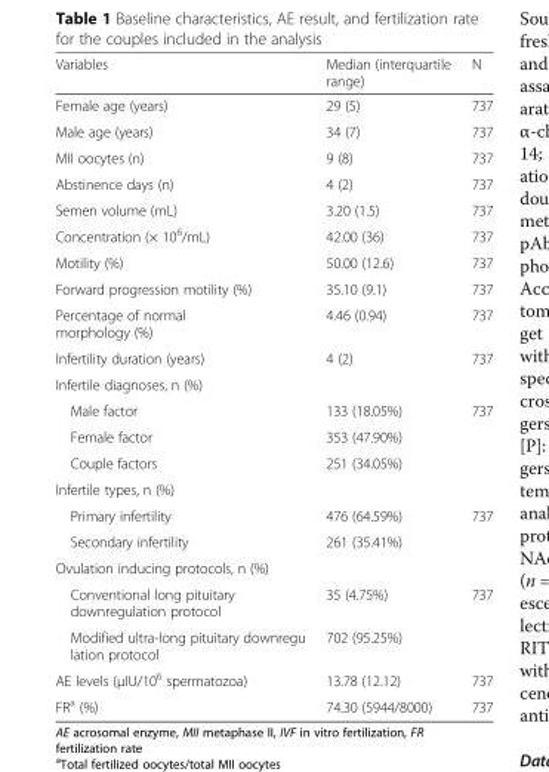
<table><thead><tr><td>Variables</td><td>Median (interquartile range)</td><td>N</td></tr></thead><tbody><tr><td>Female age (years)</td><td>29 (5)</td><td>737</td></tr><tr><td>Male age (years)</td><td>34 (7)</td><td>737</td></tr><tr><td>MII oocytes (n)</td><td>9 (8)</td><td>737</td></tr><tr><td>Abstinence days (n)</td><td>4 (2)</td><td>737</td></tr><tr><td>Semen volume (mL)</td><td>3.20 (1.5)</td><td>737</td></tr><tr><td>Concentration (× 10<sup>6</sup>/mL)</td><td>42.00 (36)</td><td>737</td></tr><tr><td>Motility (%)</td><td>50.00 (12.6)</td><td>737</td></tr><tr><td>Forward progression motility (%)</td><td>35.10 (9.1)</td><td>737</td></tr><tr><td>Percentage of normal morphology (%)</td><td>4.46 (0.94)</td><td>737</td></tr><tr><td>Infertility duration (years)</td><td>4 (2)</td><td>737</td></tr><tr><td colspan="3">Infertile diagnoses, n (%)</td></tr><tr><td>Male factor</td><td>133 (18.05%)</td><td rowspan="3">737</td></tr><tr><td>Female factor</td><td>353 (47.90%)</td></tr><tr><td>Couple factors</td><td>251 (34.05%)</td></tr><tr><td colspan="3">Infertile types, n (%)</td></tr><tr><td>Primary infertility</td><td>476 (64.59%)</td><td>737</td></tr><tr><td>Secondary infertility</td><td>261 (35.41%)</td><td></td></tr><tr><td colspan="3">Ovulation inducing protocols, n (%)</td></tr><tr><td>Conventional long pituitary downregulation protocol</td><td>35 (4.75%)</td><td>737</td></tr><tr><td>Modified ultra-long pituitary downregu lation protocol</td><td>702 (95.25%)</td><td></td></tr><tr><td>AE levels (μIU/10<sup>6</sup> spermatozoa)</td><td>13.78 (12.12)</td><td>737</td></tr><tr><td>FR<sup>a</sup> (%)</td><td>74.30 (5944/8000)</td><td>737</td></tr></tbody></table>